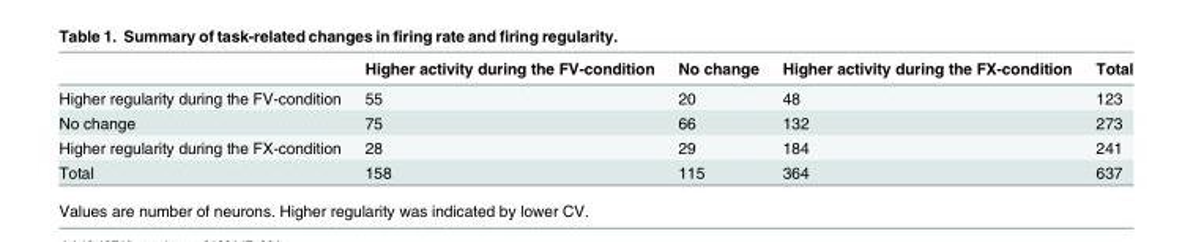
<table><thead><tr><td></td><td>Higher activity during the FV-condition</td><td>No change</td><td>Higher activity during the FX-condition</td><td>Total</td></tr></thead><tbody><tr><td>Higher regularity during the FV-condition</td><td>55</td><td>20</td><td>48</td><td>123</td></tr><tr><td>No change</td><td>75</td><td>66</td><td>132</td><td>273</td></tr><tr><td>Higher regularity during the FX-condition</td><td>28</td><td>29</td><td>184</td><td>241</td></tr><tr><td>Total</td><td>158</td><td>115</td><td>364</td><td>637</td></tr></tbody></table>